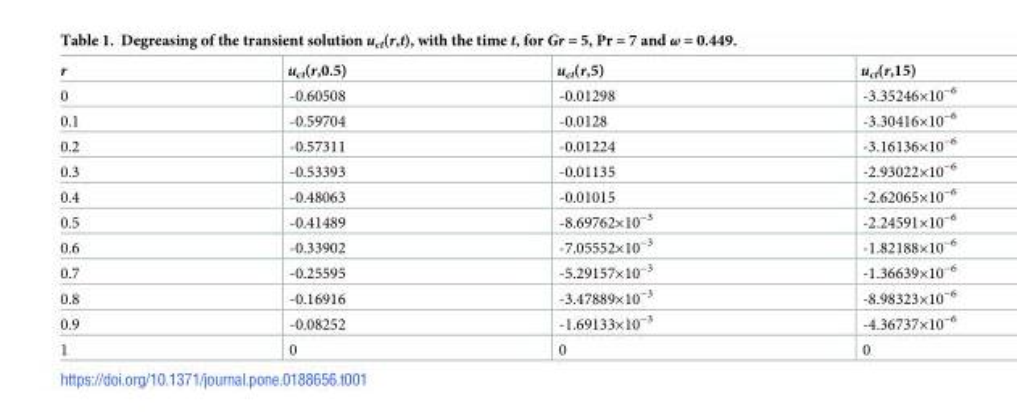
<table><thead><tr><td>r</td><td>u<sub>ct</sub>(r,0.5)</td><td>u<sub>ct</sub>(r,5)</td><td>u<sub>ct</sub>(r,15)</td></tr></thead><tbody><tr><td>0</td><td>-0.60508</td><td>-0.01298</td><td>-3.35246×10<sup>−6</sup></td></tr><tr><td>0.1</td><td>-0.59704</td><td>-0.0128</td><td>-3.30416×10<sup>−6</sup></td></tr><tr><td>0.2</td><td>-0.57311</td><td>-0.01224</td><td>-3.16136×10<sup>−6</sup></td></tr><tr><td>0.3</td><td>-0.53393</td><td>-0.01135</td><td>-2.93022×10<sup>−6</sup></td></tr><tr><td>0.4</td><td>-0.48063</td><td>-0.01015</td><td>-2.62065×10<sup>−6</sup></td></tr><tr><td>0.5</td><td>-0.41489</td><td>-8.69762×10<sup>−3</sup></td><td>-2.24591×10<sup>−6</sup></td></tr><tr><td>0.6</td><td>-0.33902</td><td>-7.05552×10<sup>−3</sup></td><td>-1.82188×10<sup>−6</sup></td></tr><tr><td>0.7</td><td>-0.25595</td><td>-5.29157×10<sup>−3</sup></td><td>-1.36639×10<sup>−6</sup></td></tr><tr><td>0.8</td><td>-0.16916</td><td>-3.47889×10<sup>−3</sup></td><td>-8.98323×10<sup>−6</sup></td></tr><tr><td>0.9</td><td>-0.08252</td><td>-1.69133×10<sup>−3</sup></td><td>-4.36737×10<sup>−6</sup></td></tr><tr><td>1</td><td>0</td><td>0</td><td>0</td></tr></tbody></table>